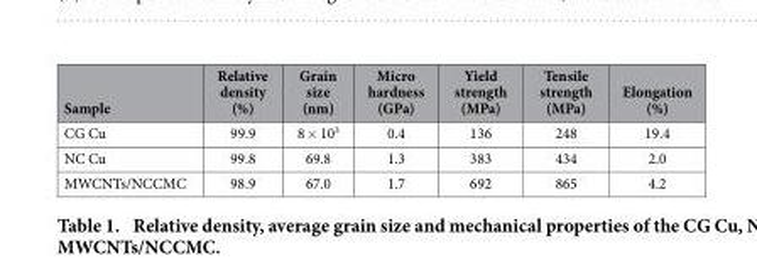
<table><thead><tr><td>Sample</td><td>Relative density (%)</td><td>Grain size (nm)</td><td>Micro hardness (GPa)</td><td>Yield strength (MPa)</td><td>Tensile strength (MPa)</td><td>Elongation (%)</td></tr></thead><tbody><tr><td>CG Cu</td><td>99.9</td><td>8 × 10<sup>3</sup></td><td>0.4</td><td>136</td><td>248</td><td>19.4</td></tr><tr><td>NC Cu</td><td>99.8</td><td>69.8</td><td>1.3</td><td>383</td><td>434</td><td>2.0</td></tr><tr><td>MWCNTs/NCCMC</td><td>98.9</td><td>67.0</td><td>1.7</td><td>692</td><td>865</td><td>4.2</td></tr></tbody></table>